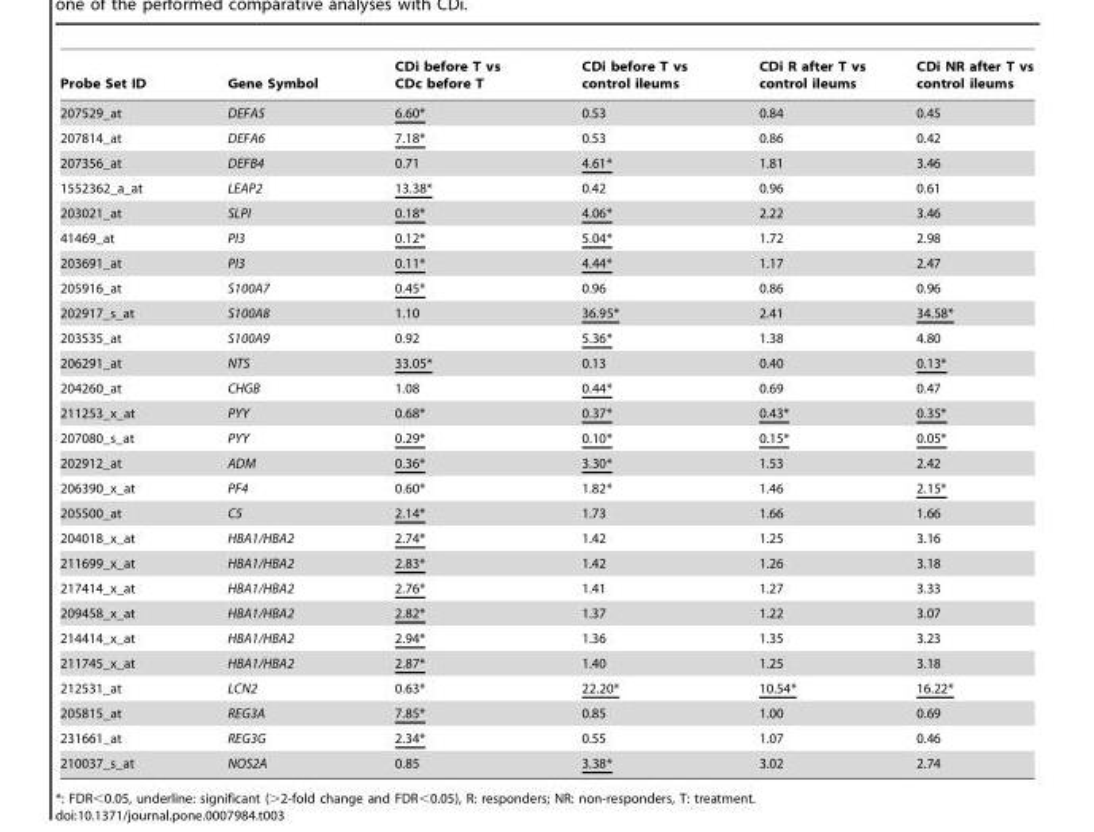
<table><thead><tr><td>Probe Set ID</td><td>Gene Symbol</td><td>CDi before T vs CDc before T</td><td>CDi before T vs control ileums</td><td>CDi R after T vs control ileums</td><td>CDi NR after T vs control ileums</td></tr></thead><tbody><tr><td>207529_at</td><td>DEFA5</td><td>6.60*</td><td>0.53</td><td>0.84</td><td>0.45</td></tr><tr><td>207814_at</td><td>DEFA6</td><td>7.18*</td><td>0.53</td><td>0.86</td><td>0.42</td></tr><tr><td>207356_at</td><td>DEFB4</td><td>0.71</td><td>4.61*</td><td>1.81</td><td>3.46</td></tr><tr><td>1552362_a_at</td><td>LEAP2</td><td>13.38*</td><td>0.42</td><td>0.96</td><td>0.61</td></tr><tr><td>203021_at</td><td>SLPI</td><td>0.18*</td><td>4.06*</td><td>2.22</td><td>3.46</td></tr><tr><td>41469_at</td><td>PI3</td><td>0.12*</td><td>5.04*</td><td>1.72</td><td>2.98</td></tr><tr><td>203691_at</td><td>PI3</td><td>0.11*</td><td>4.44*</td><td>1.17</td><td>2.47</td></tr><tr><td>205916_at</td><td>S100A7</td><td>0.45*</td><td>0.96</td><td>0.86</td><td>0.96</td></tr><tr><td>202917_s_at</td><td>S100A8</td><td>1.10</td><td>36.95*</td><td>2.41</td><td>34.58*</td></tr><tr><td>203535_at</td><td>S100A9</td><td>0.92</td><td>5.36*</td><td>1.38</td><td>4.80</td></tr><tr><td>206291_at</td><td>NTS</td><td>33.05*</td><td>0.13</td><td>0.40</td><td>0.13*</td></tr><tr><td>204260_at</td><td>CHGB</td><td>1.08</td><td>0.44*</td><td>0.69</td><td>0.47</td></tr><tr><td>211253_x_at</td><td>PYY</td><td>0.68*</td><td>0.37*</td><td>0.43*</td><td>0.35*</td></tr><tr><td>207080_s_at</td><td>PYY</td><td>0.29*</td><td>0.10*</td><td>0.15*</td><td>0.05*</td></tr><tr><td>202912_at</td><td>ADM</td><td>0.36*</td><td>3.30*</td><td>1.53</td><td>2.42</td></tr><tr><td>206390_x_at</td><td>PF4</td><td>0.60*</td><td>1.82*</td><td>1.46</td><td>2.15*</td></tr><tr><td>205500_at</td><td>C5</td><td>2.14*</td><td>1.73</td><td>1.66</td><td>1.66</td></tr><tr><td>204018_x_at</td><td>HBA1/HBA2</td><td>2.74*</td><td>1.42</td><td>1.25</td><td>3.16</td></tr><tr><td>211699_x_at</td><td>HBA1/HBA2</td><td>2.83*</td><td>1.42</td><td>1.26</td><td>3.18</td></tr><tr><td>217414_x_at</td><td>HBA1/HBA2</td><td>2.76*</td><td>1.41</td><td>1.27</td><td>3.33</td></tr><tr><td>209458_x_at</td><td>HBA1/HBA2</td><td>2.82*</td><td>1.37</td><td>1.22</td><td>3.07</td></tr><tr><td>214414_x_at</td><td>HBA1/HBA2</td><td>2.94*</td><td>1.36</td><td>1.35</td><td>3.23</td></tr><tr><td>211745_x_at</td><td>HBA1/HBA2</td><td>2.87*</td><td>1.40</td><td>1.25</td><td>3.18</td></tr><tr><td>212531_at</td><td>LCN2</td><td>0.63*</td><td>22.20*</td><td>10.54*</td><td>16.22*</td></tr><tr><td>205815_at</td><td>REG3A</td><td>7.85*</td><td>0.85</td><td>1.00</td><td>0.69</td></tr><tr><td>231661_at</td><td>REG3G</td><td>2.34*</td><td>0.55</td><td>1.07</td><td>0.46</td></tr><tr><td>210037_s_at</td><td>NOS2A</td><td>0.85</td><td>3.38*</td><td>3.02</td><td>2.74</td></tr></tbody></table>